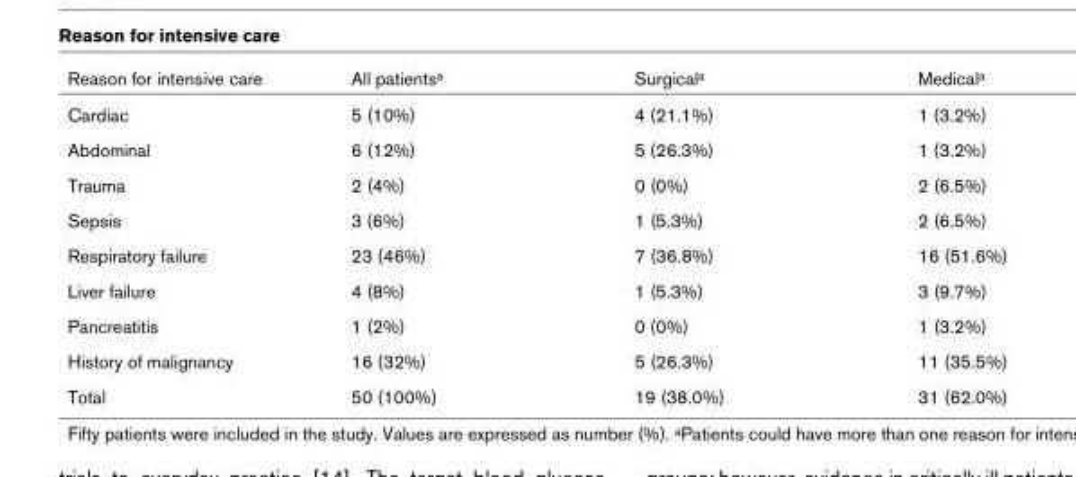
<table><thead><tr><td>Reason for intensive care</td><td>All patients<sup>a</sup></td><td>Surgical<sup>a</sup></td><td>Medical<sup>a</sup></td></tr></thead><tbody><tr><td>Cardiac</td><td>5 (10%)</td><td>4 (21.1%)</td><td>1 (3.2%)</td></tr><tr><td>Abdominal</td><td>6 (12%)</td><td>5 (26.3%)</td><td>1 (3.2%)</td></tr><tr><td>Trauma</td><td>2 (4%)</td><td>0 (0%)</td><td>2 (6.5%)</td></tr><tr><td>Sepsis</td><td>3 (6%)</td><td>1 (5.3%)</td><td>2 (6.5%)</td></tr><tr><td>Respiratory failure</td><td>23 (46%)</td><td>7 (36.8%)</td><td>16 (51.6%)</td></tr><tr><td>Liver failure</td><td>4 (8%)</td><td>1 (5.3%)</td><td>3 (9.7%)</td></tr><tr><td>Pancreatitis</td><td>1 (2%)</td><td>0 (0%)</td><td>1 (3.2%)</td></tr><tr><td>History of malignancy</td><td>16 (32%)</td><td>5 (26.3%)</td><td>11 (35.5%)</td></tr><tr><td>Total</td><td>50 (100%)</td><td>19 (38.0%)</td><td>31 (62.0%)</td></tr></tbody></table>